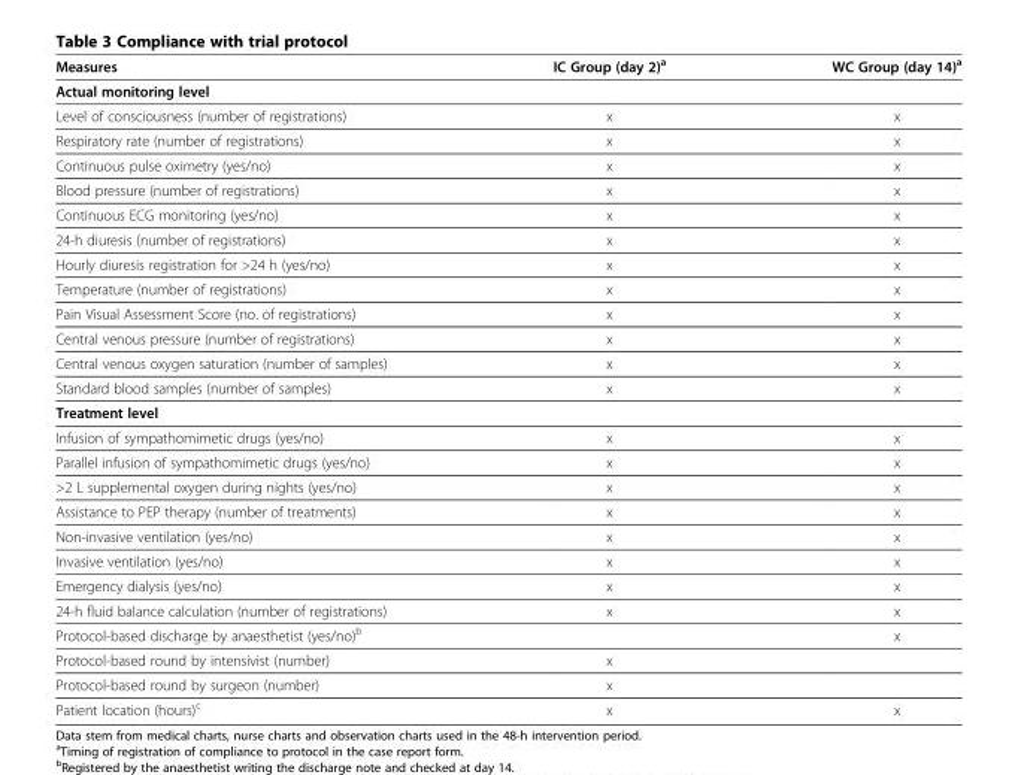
<table><thead><tr><td>Measures</td><td>IC Group (day 2)<sup>a</sup></td><td>WC Group (day 14)<sup>a</sup></td></tr></thead><tbody><tr><td colspan="3">Actual monitoring level</td></tr><tr><td>Level of consciousness (number of registrations)</td><td>x</td><td>x</td></tr><tr><td>Respiratory rate (number of registrations)</td><td>x</td><td>x</td></tr><tr><td>Continuous pulse oximetry (yes/no)</td><td>x</td><td>x</td></tr><tr><td>Blood pressure (number of registrations)</td><td>x</td><td>x</td></tr><tr><td>Continuous ECG monitoring (yes/no)</td><td>x</td><td>x</td></tr><tr><td>24-h diuresis (number of registrations)</td><td>x</td><td>x</td></tr><tr><td>Hourly diuresis registration for &gt;24 h (yes/no)</td><td>x</td><td>x</td></tr><tr><td>Temperature (number of registrations)</td><td>x</td><td>x</td></tr><tr><td>Pain Visual Assessment Score (no. of registrations)</td><td>x</td><td>x</td></tr><tr><td>Central venous pressure (number of registrations)</td><td>x</td><td>x</td></tr><tr><td>Central venous oxygen saturation (number of samples)</td><td>x</td><td>x</td></tr><tr><td>Standard blood samples (number of samples)</td><td>x</td><td>x</td></tr><tr><td colspan="3">Treatment level</td></tr><tr><td>Infusion of sympathomimetic drugs (yes/no)</td><td>x</td><td>x</td></tr><tr><td>Parallel infusion of sympathomimetic drugs (yes/no)</td><td>x</td><td>x</td></tr><tr><td>&gt;2 L supplemental oxygen during nights (yes/no)</td><td>x</td><td>x</td></tr><tr><td>Assistance to PEP therapy (number of treatments)</td><td>x</td><td>x</td></tr><tr><td>Non-invasive ventilation (yes/no)</td><td>x</td><td>x</td></tr><tr><td>Invasive ventilation (yes/no)</td><td>x</td><td>x</td></tr><tr><td>Emergency dialysis (yes/no)</td><td>x</td><td>x</td></tr><tr><td>24-h fluid balance calculation (number of registrations)</td><td>x</td><td>x</td></tr><tr><td>Protocol-based discharge by anaesthetist (yes/no)<sup>b</sup></td><td></td><td>x</td></tr><tr><td>Protocol-based round by intensivist (number)</td><td>x</td><td></td></tr><tr><td>Protocol-based round by surgeon (number)</td><td>x</td><td></td></tr><tr><td>Patient location (hours)<sup>c</sup></td><td>x</td><td>x</td></tr></tbody></table>